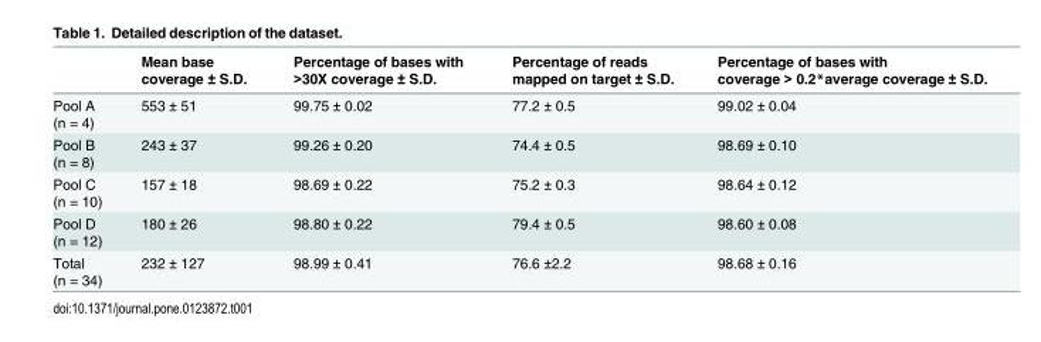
<table><thead><tr><td></td><td>Mean base coverage ± S.D.</td><td>Percentage of bases with &gt;30X coverage ± S.D.</td><td>Percentage of reads mapped on target ± S.D.</td><td>Percentage of bases with coverage &gt; 0.2*average coverage ± S.D.</td></tr></thead><tbody><tr><td>Pool A (n = 4)</td><td>553 ± 51</td><td>99.75 ± 0.02</td><td>77.2 ± 0.5</td><td>99.02 ± 0.04</td></tr><tr><td>Pool B (n = 8)</td><td>243 ± 37</td><td>99.26 ± 0.20</td><td>74.4 ± 0.5</td><td>98.69 ± 0.10</td></tr><tr><td>Pool C (n = 10)</td><td>157 ± 18</td><td>98.69 ± 0.22</td><td>75.2 ± 0.3</td><td>98.64 ± 0.12</td></tr><tr><td>Pool D (n = 12)</td><td>180 ± 26</td><td>98.80 ± 0.22</td><td>79.4 ± 0.5</td><td>98.60 ± 0.08</td></tr><tr><td>Total (n = 34)</td><td>232 ± 127</td><td>98.99 ± 0.41</td><td>76.6 ±2.2</td><td>98.68 ± 0.16</td></tr></tbody></table>